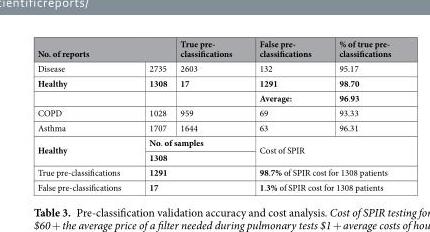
<table><thead><tr><td colspan="2">No. of reports</td><td rowspan="2">True pre- classifications 2603</td><td rowspan="2">False pre- classifications 132</td><td rowspan="2">% of true pre- classifications 95.17</td></tr><tr><td>Disease</td><td>2735</td></tr></thead><tbody><tr><td rowspan="2">Healthy</td><td>1308</td><td>17</td><td>1291</td><td>98.70</td></tr><tr><td></td><td></td><td>Average:</td><td>96.93</td></tr><tr><td>COPD</td><td>1028</td><td>959</td><td>69</td><td>93.33</td></tr><tr><td>Asthma</td><td>1707</td><td>1644</td><td>63</td><td>96.31</td></tr><tr><td rowspan="2">Healthy</td><td colspan="2">No. of samples</td><td rowspan="2" colspan="2">Cost of SPIR</td></tr><tr><td colspan="2">1308</td></tr><tr><td>True pre-classifications</td><td colspan="2">1291</td><td colspan="2">98.7% of SPIR cost for 1308 patients</td></tr><tr><td>False pre-classifications</td><td colspan="2">17</td><td colspan="2">1.3% of SPIR cost for 1308 patients</td></tr></tbody></table>